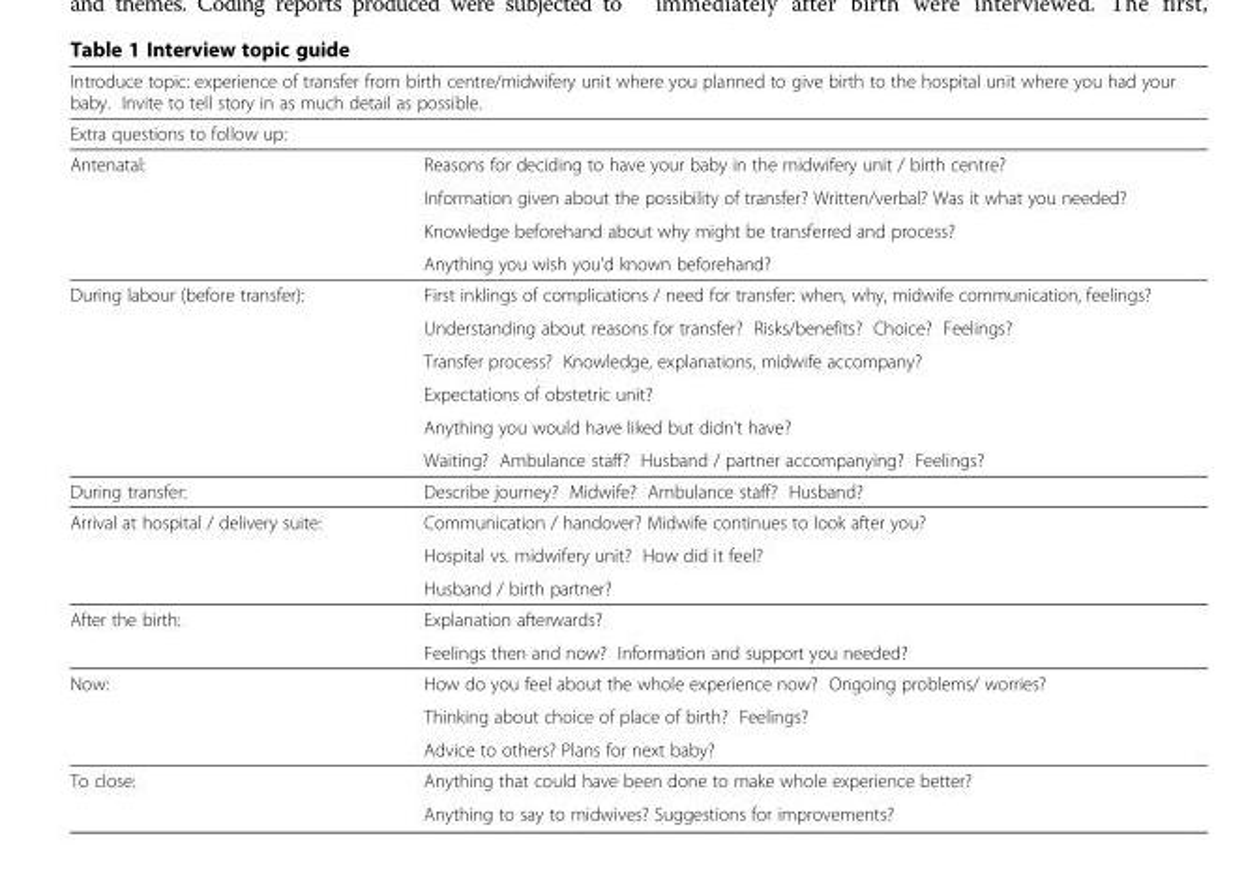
<table><thead><tr><td rowspan="2" colspan="2">Introduce topic: experience of transfer from birth centre/midwifery unit where you planned to give birth to the hospital unit where you had your baby. Invite to tell story in as much detail as possible. Extra questions to follow up:</td></tr><tr></tr><tr><td>Antenatal:</td><td>Reasons for deciding to have your baby in the midwifery unit / birth centre?</td></tr></thead><tbody><tr><td></td><td>Information given about the possibility of transfer? Written/verbal? Was it what you needed?</td></tr><tr><td></td><td>Knowledge beforehand about why might be transferred and process?</td></tr><tr><td></td><td>Anything you wish you’d known beforehand?</td></tr><tr><td rowspan="6">During labour (before transfer):</td><td>First inklings of complications / need for transfer: when, why, midwife communication, feelings?</td></tr><tr><td>Understanding about reasons for transfer? Risks/benefits? Choice? Feelings?</td></tr><tr><td>Transfer process? Knowledge, explanations, midwife accompany?</td></tr><tr><td>Expectations of obstetric unit?</td></tr><tr><td>Anything you would have liked but didn’t have?</td></tr><tr><td>Waiting? Ambulance staff? Husband / partner accompanying? Feelings?</td></tr><tr><td>During transfer:</td><td>Describe journey? Midwife? Ambulance staff? Husband?</td></tr><tr><td rowspan="3">Arrival at hospital / delivery suite:</td><td>Communication / handover? Midwife continues to look after you?</td></tr><tr><td>Hospital vs. midwifery unit? How did it feel?</td></tr><tr><td>Husband / birth partner?</td></tr><tr><td rowspan="2">After the birth:</td><td>Explanation afterwards?</td></tr><tr><td>Feelings then and now? Information and support you needed?</td></tr><tr><td rowspan="3">Now:</td><td>How do you feel about the whole experience now? Ongoing problems/ worries?</td></tr><tr><td>Thinking about choice of place of birth? Feelings?</td></tr><tr><td>Advice to others? Plans for next baby?</td></tr><tr><td rowspan="2">To close:</td><td>Anything that could have been done to make whole experience better?</td></tr><tr><td>Anything to say to midwives? Suggestions for improvements?</td></tr></tbody></table>